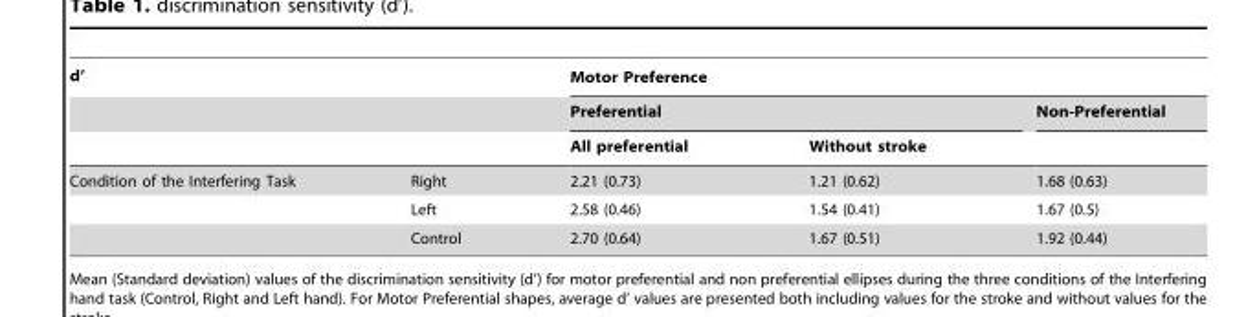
<table><thead><tr><td colspan="2">d’</td><td colspan="3">Motor Preference</td></tr><tr><td rowspan="2"></td><td rowspan="2"></td><td colspan="2">Preferential</td><td rowspan="2">Non-Preferential</td></tr><tr><td>All preferential</td><td>Without stroke</td></tr></thead><tbody><tr><td rowspan="3">Condition of the Interfering Task</td><td>Right</td><td>2.21 (0.73)</td><td>1.21 (0.62)</td><td>1.68 (0.63)</td></tr><tr><td>Left</td><td>2.58 (0.46)</td><td>1.54 (0.41)</td><td>1.67 (0.5)</td></tr><tr><td>Control</td><td>2.70 (0.64)</td><td>1.67 (0.51)</td><td>1.92 (0.44)</td></tr></tbody></table>